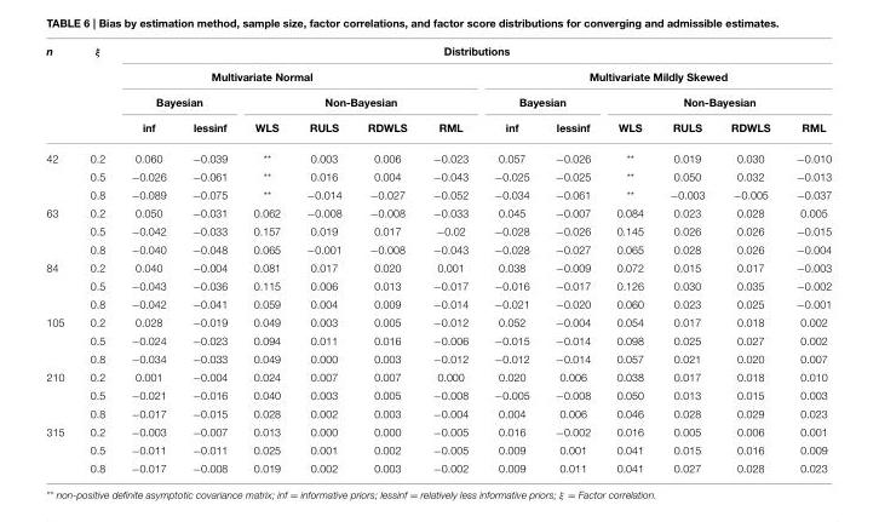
<table><thead><tr><td rowspan="4">n</td><td rowspan="4">ξ</td><td colspan="12">Distributions</td></tr><tr><td colspan="6">Multivariate Normal</td><td colspan="6">Multivariate Mildly Skewed</td></tr><tr><td colspan="2">Bayesian</td><td colspan="4">Non-Bayesian</td><td colspan="2">Bayesian</td><td colspan="4">Non-Bayesian</td></tr><tr><td>inf</td><td>lessinf</td><td>WLS</td><td>RULS</td><td>RDWLS</td><td>RML</td><td>inf</td><td>lessinf</td><td>WLS</td><td>RULS</td><td>RDWLS</td><td>RML</td></tr></thead><tbody><tr><td rowspan="3">42</td><td>0.2</td><td>0.060</td><td>−0.039</td><td>**</td><td>0.003</td><td>0.006</td><td>−0.023</td><td>0.057</td><td>−0.026</td><td>**</td><td>0.019</td><td>0.030</td><td>−0.010</td></tr><tr><td>0.5</td><td>−0.026</td><td>−0.061</td><td>**</td><td>0.016</td><td>0.004</td><td>−0.043</td><td>−0.025</td><td>−0.025</td><td>**</td><td>0.050</td><td>0.032</td><td>−0.013</td></tr><tr><td>0.8</td><td>−0.089</td><td>−0.075</td><td>**</td><td>−0.014</td><td>−0.027</td><td>−0.052</td><td>−0.034</td><td>−0.061</td><td>**</td><td>−0.003</td><td>−0.005</td><td>−0.037</td></tr><tr><td rowspan="3">63</td><td>0.2</td><td>0.050</td><td>−0.031</td><td>0.062</td><td>−0.008</td><td>−0.008</td><td>−0.033</td><td>0.045</td><td>−0.007</td><td>0.084</td><td>0.023</td><td>0.028</td><td>0.005</td></tr><tr><td>0.5</td><td>−0.042</td><td>−0.033</td><td>0.157</td><td>0.019</td><td>0.017</td><td>−0.02</td><td>−0.028</td><td>−0.026</td><td>0.145</td><td>0.026</td><td>0.026</td><td>−0.015</td></tr><tr><td>0.8</td><td>−0.040</td><td>−0.048</td><td>0.065</td><td>−0.001</td><td>−0.008</td><td>−0.043</td><td>−0.028</td><td>−0.027</td><td>0.065</td><td>0.028</td><td>0.026</td><td>−0.004</td></tr><tr><td rowspan="3">84</td><td>0.2</td><td>0.040</td><td>−0.004</td><td>0.081</td><td>0.017</td><td>0.020</td><td>0.001</td><td>0.038</td><td>−0.009</td><td>0.072</td><td>0.015</td><td>0.017</td><td>−0.003</td></tr><tr><td>0.5</td><td>−0.043</td><td>−0.036</td><td>0.115</td><td>0.006</td><td>0.013</td><td>−0.017</td><td>−0.016</td><td>−0.017</td><td>0.126</td><td>0.030</td><td>0.035</td><td>−0.002</td></tr><tr><td>0.8</td><td>−0.042</td><td>−0.041</td><td>0.059</td><td>0.004</td><td>0.009</td><td>−0.014</td><td>−0.021</td><td>−0.020</td><td>0.060</td><td>0.023</td><td>0.025</td><td>−0.001</td></tr><tr><td rowspan="3">105</td><td>0.2</td><td>0.028</td><td>−0.019</td><td>0.049</td><td>0.003</td><td>0.005</td><td>−0.012</td><td>0.052</td><td>−0.004</td><td>0.054</td><td>0.017</td><td>0.018</td><td>0.002</td></tr><tr><td>0.5</td><td>−0.024</td><td>−0.023</td><td>0.094</td><td>0.011</td><td>0.016</td><td>−0.006</td><td>−0.015</td><td>−0.014</td><td>0.098</td><td>0.025</td><td>0.027</td><td>0.002</td></tr><tr><td>0.8</td><td>−0.034</td><td>−0.033</td><td>0.049</td><td>0.000</td><td>0.003</td><td>−0.012</td><td>−0.012</td><td>−0.014</td><td>0.057</td><td>0.021</td><td>0.020</td><td>0.007</td></tr><tr><td rowspan="3">210</td><td>0.2</td><td>0.001</td><td>−0.004</td><td>0.024</td><td>0.007</td><td>0.007</td><td>0.000</td><td>0.020</td><td>0.006</td><td>0.038</td><td>0.017</td><td>0.018</td><td>0.010</td></tr><tr><td>0.5</td><td>−0.021</td><td>−0.016</td><td>0.040</td><td>0.003</td><td>0.005</td><td>−0.008</td><td>−0.005</td><td>−0.008</td><td>0.050</td><td>0.013</td><td>0.015</td><td>0.003</td></tr><tr><td>0.8</td><td>−0.017</td><td>−0.015</td><td>0.028</td><td>0.002</td><td>0.003</td><td>−0.004</td><td>0.004</td><td>0.006</td><td>0.046</td><td>0.028</td><td>0.029</td><td>0.023</td></tr><tr><td rowspan="3">315</td><td>0.2</td><td>−0.003</td><td>−0.007</td><td>0.013</td><td>0.000</td><td>0.000</td><td>−0.005</td><td>0.016</td><td>−0.002</td><td>0.016</td><td>0.005</td><td>0.006</td><td>0.001</td></tr><tr><td>0.5</td><td>−0.011</td><td>−0.011</td><td>0.025</td><td>0.001</td><td>0.002</td><td>−0.005</td><td>0.009</td><td>0.001</td><td>0.041</td><td>0.015</td><td>0.016</td><td>0.009</td></tr><tr><td>0.8</td><td>−0.017</td><td>−0.008</td><td>0.019</td><td>0.002</td><td>0.003</td><td>−0.002</td><td>0.009</td><td>0.011</td><td>0.041</td><td>0.027</td><td>0.028</td><td>0.023</td></tr></tbody></table>